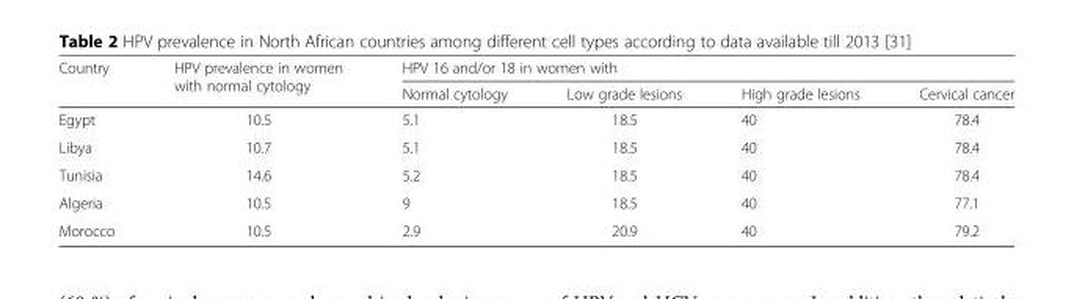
<table><thead><tr><td rowspan="2">Country</td><td rowspan="2">HPV prevalence in women with normal cytology</td><td colspan="4">HPV 16 and/or 18 in women with</td></tr><tr><td>Normal cytology</td><td>Low grade lesions</td><td>High grade lesions</td><td>Cervical cancer</td></tr></thead><tbody><tr><td>Egypt</td><td>10.5</td><td>5.1</td><td>18.5</td><td>40</td><td>78.4</td></tr><tr><td>Libya</td><td>10.7</td><td>5.1</td><td>18.5</td><td>40</td><td>78.4</td></tr><tr><td>Tunisia</td><td>14.6</td><td>5.2</td><td>18.5</td><td>40</td><td>78.4</td></tr><tr><td>Algeria</td><td>10.5</td><td>9</td><td>18.5</td><td>40</td><td>77.1</td></tr><tr><td>Morocco</td><td>10.5</td><td>2.9</td><td>20.9</td><td>40</td><td>79.2</td></tr></tbody></table>